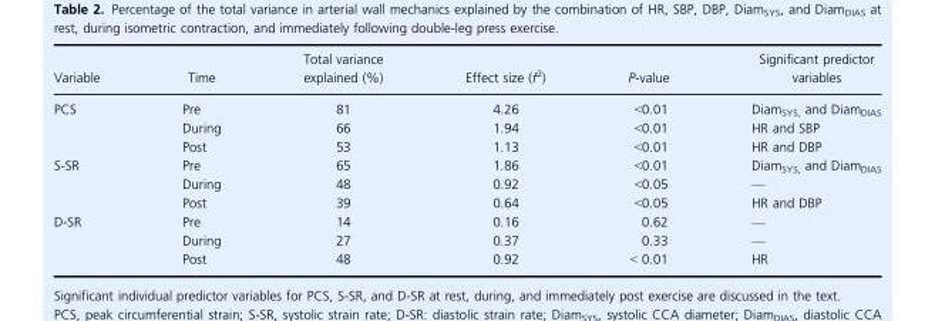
<table><thead><tr><td>Variable</td><td>Time</td><td>Total variance explained (%)</td><td>Effect size (f<sup>2</sup>)</td><td>P-value</td><td>Significant predictor variables</td></tr></thead><tbody><tr><td rowspan="3">PCS</td><td>Pre</td><td>81</td><td>4.26</td><td>&lt;0.01</td><td>Diam<sub>SYS,</sub> and Diam<sub>DIAS</sub></td></tr><tr><td>During</td><td>66</td><td>1.94</td><td>&lt;0.01</td><td>HR and SBP</td></tr><tr><td>Post</td><td>53</td><td>1.13</td><td>&lt;0.01</td><td>HR and DBP</td></tr><tr><td rowspan="3">S-SR</td><td>Pre</td><td>65</td><td>1.86</td><td>&lt;0.01</td><td>Diam<sub>SYS,</sub> and Diam<sub>DIAS</sub></td></tr><tr><td>During</td><td>48</td><td>0.92</td><td>&lt;0.05</td><td>—</td></tr><tr><td>Post</td><td>39</td><td>0.64</td><td>&lt;0.05</td><td>HR and DBP</td></tr><tr><td rowspan="3">D-SR</td><td>Pre</td><td>14</td><td>0.16</td><td>0.62</td><td>—</td></tr><tr><td>During</td><td>27</td><td>0.37</td><td>0.33</td><td>—</td></tr><tr><td>Post</td><td>48</td><td>0.92</td><td>&lt; 0.01</td><td>HR</td></tr></tbody></table>